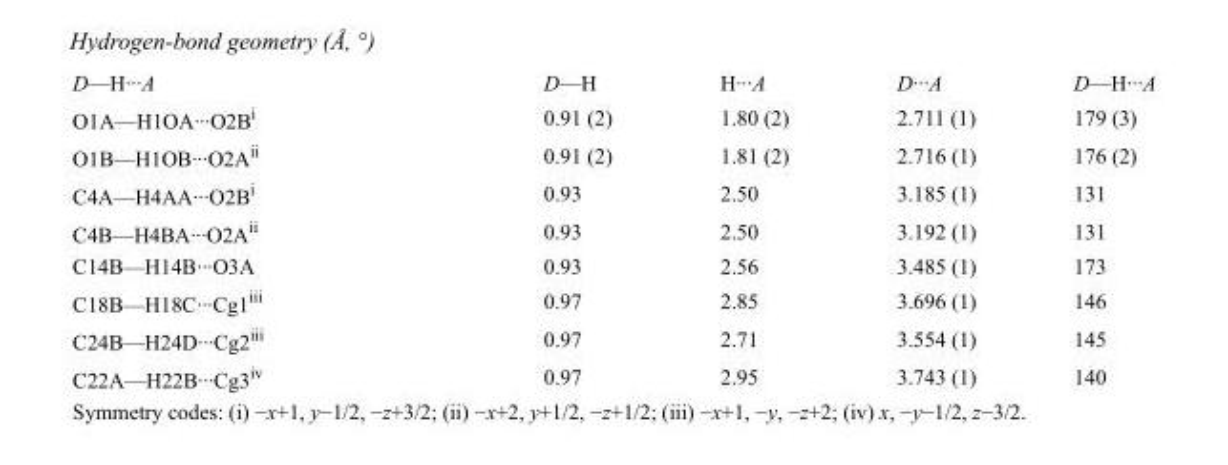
<table><tbody><tr><td>D—H···A</td><td>D—H</td><td>H···A</td><td>D···A</td><td>D—H···A</td></tr><tr><td>O1A—H1OA···O2B<sup>i</sup></td><td>0.91 (2)</td><td>1.80 (2)</td><td>2.711 (1)</td><td>179 (3)</td></tr><tr><td>O1B—H1OB···O2A<sup>ii</sup></td><td>0.91 (2)</td><td>1.81 (2)</td><td>2.716 (1)</td><td>176 (2)</td></tr><tr><td>C4A—H4AA···O2B<sup>i</sup></td><td>0.93</td><td>2.50</td><td>3.185 (1)</td><td>131</td></tr><tr><td>C4B—H4BA···O2A<sup>ii</sup></td><td>0.93</td><td>2.50</td><td>3.192 (1)</td><td>131</td></tr><tr><td>C14B—H14B···O3A</td><td>0.93</td><td>2.56</td><td>3.485 (1)</td><td>173</td></tr><tr><td>C18B—H18C···Cg1<sup>iii</sup></td><td>0.97</td><td>2.85</td><td>3.696 (1)</td><td>146</td></tr><tr><td>C24B—H24D···Cg2<sup>iii</sup></td><td>0.97</td><td>2.71</td><td>3.554 (1)</td><td>145</td></tr><tr><td>C22A—H22B···Cg3<sup>iv</sup></td><td>0.97</td><td>2.95</td><td>3.743 (1)</td><td>140</td></tr></tbody></table>